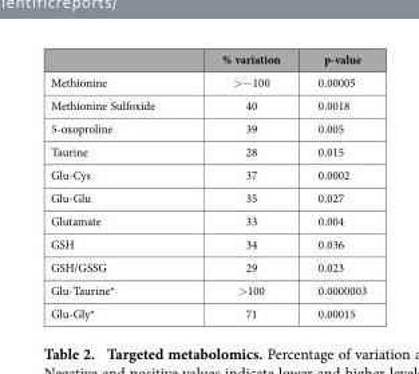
<table><thead><tr><td></td><td>% variation</td><td>p-value</td></tr></thead><tbody><tr><td>Methionine</td><td>&gt; − 100</td><td>0.00005</td></tr><tr><td>Methionine Sulfoxide</td><td>40</td><td>0.0018</td></tr><tr><td>5-oxoproline</td><td>39</td><td>0.005</td></tr><tr><td>Taurine</td><td>28</td><td>0.015</td></tr><tr><td>Glu-Cys</td><td>37</td><td>0.0002</td></tr><tr><td>Glu-Glu</td><td>35</td><td>0.027</td></tr><tr><td>Glutamate</td><td>33</td><td>0.004</td></tr><tr><td>GSH</td><td>34</td><td>0.036</td></tr><tr><td>GSH/GSSG</td><td>29</td><td>0.023</td></tr><tr><td>Glu-Taurine*</td><td>&gt;100</td><td>0.0000003</td></tr><tr><td>Glu-Gly*</td><td>71</td><td>0.00015</td></tr></tbody></table>